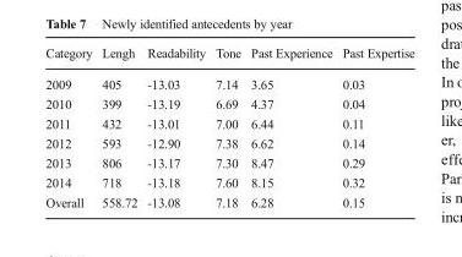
<table><thead><tr><td>Category</td><td>Lengh</td><td>Readability</td><td>Tone</td><td>Past Experience</td><td>Past Expertise</td></tr></thead><tbody><tr><td>2009</td><td>405</td><td>-13.03</td><td>7.14</td><td>3.65</td><td>0.03</td></tr><tr><td>2010</td><td>399</td><td>-13.19</td><td>6.69</td><td>4.37</td><td>0.04</td></tr><tr><td>2011</td><td>432</td><td>-13.01</td><td>7.00</td><td>6.44</td><td>0.11</td></tr><tr><td>2012</td><td>593</td><td>-12.90</td><td>7.38</td><td>6.62</td><td>0.14</td></tr><tr><td>2013</td><td>806</td><td>-13.17</td><td>7.30</td><td>8.47</td><td>0.29</td></tr><tr><td>2014</td><td>718</td><td>-13.18</td><td>7.60</td><td>8.15</td><td>0.32</td></tr><tr><td>Overall</td><td>558.72</td><td>-13.08</td><td>7.18</td><td>6.28</td><td>0.15</td></tr></tbody></table>